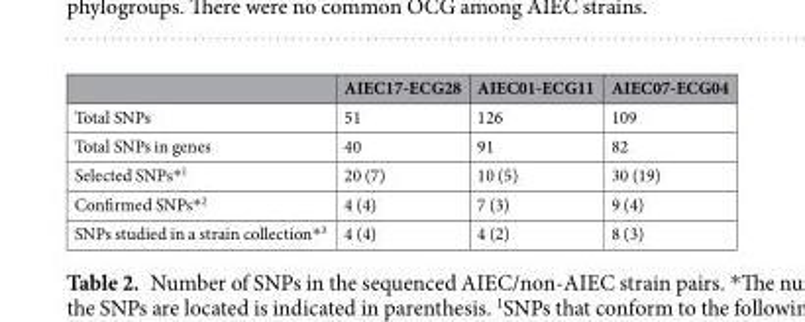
<table><thead><tr><td></td><td>AIEC17-ECG28</td><td>AIEC01-ECG11</td><td>AIEC07-ECG04</td></tr></thead><tbody><tr><td>Total SNPs</td><td>51</td><td>126</td><td>109</td></tr><tr><td>Total SNPs in genes</td><td>40</td><td>91</td><td>82</td></tr><tr><td>Selected SNPs*<sup>1</sup></td><td>20 (7)</td><td>10 (5)</td><td>30 (19)</td></tr><tr><td>Confirmed SNPs*<sup>2</sup></td><td>4 (4)</td><td>7 (3)</td><td>9 (4)</td></tr><tr><td>SNPs studied in a strain collection*<sup>3</sup></td><td>4 (4)</td><td>4 (2)</td><td>8 (3)</td></tr></tbody></table>